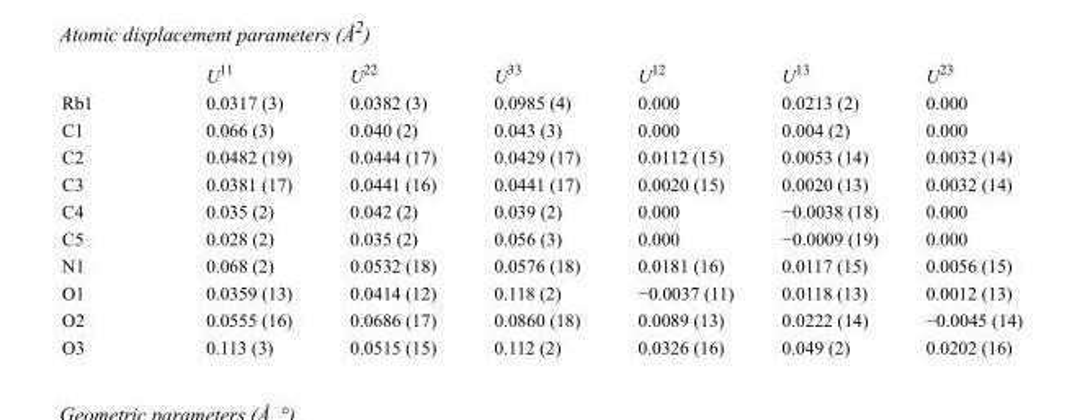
<table><thead><tr><td></td><td>U<sup>11</sup></td><td>U<sup>22</sup></td><td>U<sup>33</sup></td><td>U<sup>12</sup></td><td>U<sup>13</sup></td><td>U<sup>23</sup></td></tr></thead><tbody><tr><td>Rb1</td><td>0.0317 (3)</td><td>0.0382 (3)</td><td>0.0985 (4)</td><td>0.000</td><td>0.0213 (2)</td><td>0.000</td></tr><tr><td>C1</td><td>0.066 (3)</td><td>0.040 (2)</td><td>0.043 (3)</td><td>0.000</td><td>0.004 (2)</td><td>0.000</td></tr><tr><td>C2</td><td>0.0482 (19)</td><td>0.0444 (17)</td><td>0.0429 (17)</td><td>0.0112 (15)</td><td>0.0053 (14)</td><td>0.0032 (14)</td></tr><tr><td>C3</td><td>0.0381 (17)</td><td>0.0441 (16)</td><td>0.0441 (17)</td><td>0.0020 (15)</td><td>0.0020 (13)</td><td>0.0032 (14)</td></tr><tr><td>C4</td><td>0.035 (2)</td><td>0.042 (2)</td><td>0.039 (2)</td><td>0.000</td><td>−0.0038 (18)</td><td>0.000</td></tr><tr><td>C5</td><td>0.028 (2)</td><td>0.035 (2)</td><td>0.056 (3)</td><td>0.000</td><td>−0.0009 (19)</td><td>0.000</td></tr><tr><td>N1</td><td>0.068 (2)</td><td>0.0532 (18)</td><td>0.0576 (18)</td><td>0.0181 (16)</td><td>0.0117 (15)</td><td>0.0056 (15)</td></tr><tr><td>O1</td><td>0.0359 (13)</td><td>0.0414 (12)</td><td>0.118 (2)</td><td>−0.0037 (11)</td><td>0.0118 (13)</td><td>0.0012 (13)</td></tr><tr><td>O2</td><td>0.0555 (16)</td><td>0.0686 (17)</td><td>0.0860 (18)</td><td>0.0089 (13)</td><td>0.0222 (14)</td><td>−0.0045 (14)</td></tr><tr><td>O3</td><td>0.113 (3)</td><td>0.0515 (15)</td><td>0.112 (2)</td><td>0.0326 (16)</td><td>0.049 (2)</td><td>0.0202 (16)</td></tr></tbody></table>